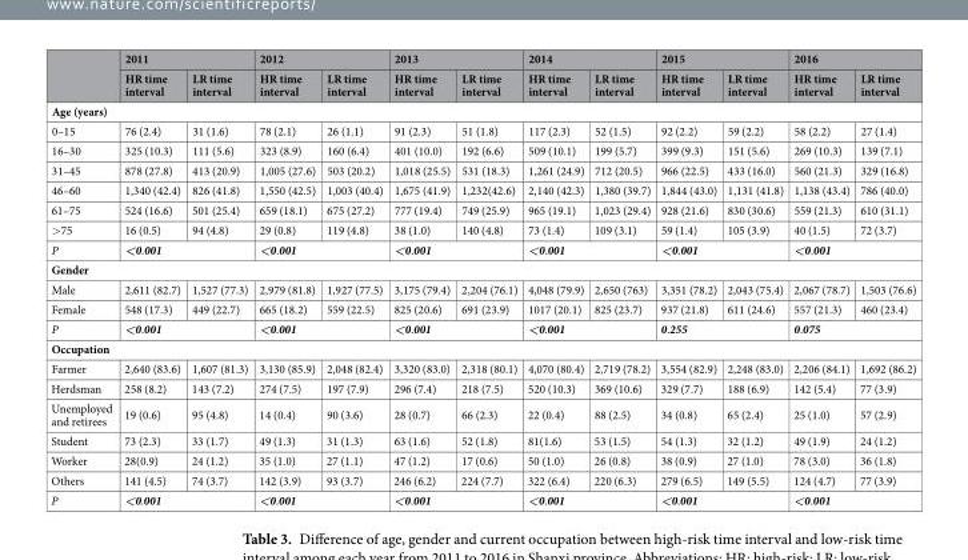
<table><thead><tr><td rowspan="2"></td><td colspan="2">2011</td><td colspan="2">2012</td><td colspan="2">2013</td><td colspan="2">2014</td><td colspan="2">2015</td><td colspan="2">2016</td></tr><tr><td>HR time interval</td><td>LR time interval</td><td>HR time interval</td><td>LR time interval</td><td>HR time interval</td><td>LR time interval</td><td>HR time interval</td><td>LR time interval</td><td>HR time interval</td><td>LR time interval</td><td>HR time interval</td><td>LR time interval</td></tr></thead><tbody><tr><td colspan="13">Age (years)</td></tr><tr><td>0–15</td><td>76 (2.4)</td><td>31 (1.6)</td><td>78 (2.1)</td><td>26 (1.1)</td><td>91 (2.3)</td><td>51 (1.8)</td><td>117 (2.3)</td><td>52 (1.5)</td><td>92 (2.2)</td><td>59 (2.2)</td><td>58 (2.2)</td><td>27 (1.4)</td></tr><tr><td>16–30</td><td>325 (10.3)</td><td>111 (5.6)</td><td>323 (8.9)</td><td>160 (6.4)</td><td>401 (10.0)</td><td>192 (6.6)</td><td>509 (10.1)</td><td>199 (5.7)</td><td>399 (9.3)</td><td>151 (5.6)</td><td>269 (10.3)</td><td>139 (7.1)</td></tr><tr><td>31–45</td><td>878 (27.8)</td><td>413 (20.9)</td><td>1,005 (27.6)</td><td>503 (20.2)</td><td>1,018 (25.5)</td><td>531 (18.3)</td><td>1,261 (24.9)</td><td>712 (20.5)</td><td>966 (22.5)</td><td>433 (16.0)</td><td>560 (21.3)</td><td>329 (16.8)</td></tr><tr><td>46–60</td><td>1,340 (42.4)</td><td>826 (41.8)</td><td>1,550 (42.5)</td><td>1,003 (40.4)</td><td>1,675 (41.9)</td><td>1,232(42.6)</td><td>2,140 (42.3)</td><td>1,380 (39.7)</td><td>1,844 (43.0)</td><td>1,131 (41.8)</td><td>1,138 (43.4)</td><td>786 (40.0)</td></tr><tr><td>61–75</td><td>524 (16.6)</td><td>501 (25.4)</td><td>659 (18.1)</td><td>675 (27.2)</td><td>777 (19.4)</td><td>749 (25.9)</td><td>965 (19.1)</td><td>1,023 (29.4)</td><td>928 (21.6)</td><td>830 (30.6)</td><td>559 (21.3)</td><td>610 (31.1)</td></tr><tr><td>&gt;75</td><td>16 (0.5)</td><td>94 (4.8)</td><td>29 (0.8)</td><td>119 (4.8)</td><td>38 (1.0)</td><td>140 (4.8)</td><td>73 (1.4)</td><td>109 (3.1)</td><td>59 (1.4)</td><td>105 (3.9)</td><td>40 (1.5)</td><td>72 (3.7)</td></tr><tr><td>P</td><td colspan="2">&lt;0.001</td><td colspan="2">&lt;0.001</td><td colspan="2">&lt;0.001</td><td colspan="2">&lt;0.001</td><td colspan="2">&lt;0.001</td><td colspan="2">&lt;0.001</td></tr><tr><td colspan="13">Gender</td></tr><tr><td>Male</td><td>2,611 (82.7)</td><td>1,527 (77.3)</td><td>2,979 (81.8)</td><td>1,927 (77.5)</td><td>3,175 (79.4)</td><td>2,204 (76.1)</td><td>4,048 (79.9)</td><td>2,650 (763)</td><td>3,351 (78.2)</td><td>2,043 (75.4)</td><td>2,067 (78.7)</td><td>1,503 (76.6)</td></tr><tr><td>Female</td><td>548 (17.3)</td><td>449 (22.7)</td><td>665 (18.2)</td><td>559 (22.5)</td><td>825 (20.6)</td><td>691 (23.9)</td><td>1017 (20.1)</td><td>825 (23.7)</td><td>937 (21.8)</td><td>611 (24.6)</td><td>557 (21.3)</td><td>460 (23.4)</td></tr><tr><td>P</td><td colspan="2">&lt;0.001</td><td colspan="2">&lt;0.001</td><td colspan="2">&lt;0.001</td><td colspan="2">&lt;0.001</td><td colspan="2">0.255</td><td colspan="2">0.075</td></tr><tr><td colspan="13">Occupation</td></tr><tr><td>Farmer</td><td>2,640 (83.6)</td><td>1,607 (81.3)</td><td>3,130 (85.9)</td><td>2,048 (82.4)</td><td>3,320 (83.0)</td><td>2,318 (80.1)</td><td>4,070 (80.4)</td><td>2,719 (78.2)</td><td>3,554 (82.9)</td><td>2,248 (83.0)</td><td>2,206 (84.1)</td><td>1,692 (86.2)</td></tr><tr><td>Herdsman</td><td>258 (8.2)</td><td>143 (7.2)</td><td>274 (7.5)</td><td>197 (7.9)</td><td>296 (7.4)</td><td>218 (7.5)</td><td>520 (10.3)</td><td>369 (10.6)</td><td>329 (7.7)</td><td>188 (6.9)</td><td>142 (5.4)</td><td>77 (3.9)</td></tr><tr><td>Unemployed and retirees</td><td>19 (0.6)</td><td>95 (4.8)</td><td>14 (0.4)</td><td>90 (3.6)</td><td>28 (0.7)</td><td>66 (2.3)</td><td>22 (0.4)</td><td>88 (2.5)</td><td>34 (0.8)</td><td>65 (2.4)</td><td>25 (1.0)</td><td>57 (2.9)</td></tr><tr><td>Student</td><td>73 (2.3)</td><td>33 (1.7)</td><td>49 (1.3)</td><td>31 (1.3)</td><td>63 (1.6)</td><td>52 (1.8)</td><td>81(1.6)</td><td>53 (1.5)</td><td>54 (1.3)</td><td>32 (1.2)</td><td>49 (1.9)</td><td>24 (1.2)</td></tr><tr><td>Worker</td><td>28(0.9)</td><td>24 (1.2)</td><td>35 (1.0)</td><td>27 (1.1)</td><td>47 (1.2)</td><td>17 (0.6)</td><td>50 (1.0)</td><td>26 (0.8)</td><td>38 (0.9)</td><td>27 (1.0)</td><td>78 (3.0)</td><td>36 (1.8)</td></tr><tr><td>Others</td><td>141 (4.5)</td><td>74 (3.7)</td><td>142 (3.9)</td><td>93 (3.7)</td><td>246 (6.2)</td><td>224 (7.7)</td><td>322 (6.4)</td><td>220 (6.3)</td><td>279 (6.5)</td><td>149 (5.5)</td><td>124 (4.7)</td><td>77 (3.9)</td></tr><tr><td>P</td><td colspan="2">&lt;0.001</td><td colspan="2">&lt;0.001</td><td colspan="2">&lt;0.001</td><td colspan="2">&lt;0.001</td><td colspan="2">&lt;0.001</td><td colspan="2">&lt;0.001</td></tr></tbody></table>